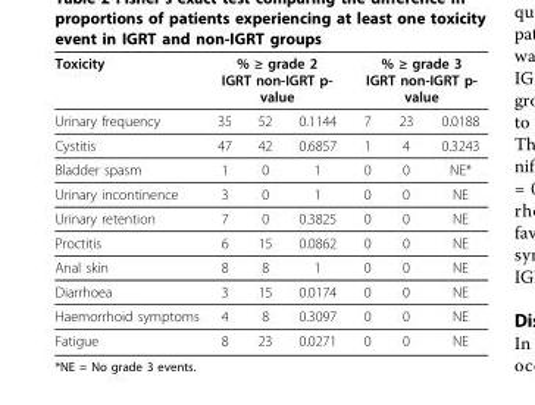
<table><thead><tr><td rowspan="2">Toxicity Urinary frequency</td><td colspan="3">% ≥ grade 2 IGRT non-IGRT p- value</td><td colspan="3">% ≥ grade 3 IGRT non-IGRT p- value</td></tr><tr><td>35</td><td>52</td><td>0.1144</td><td>7</td><td>23</td><td>0.0188</td></tr></thead><tbody><tr><td>Cystitis</td><td>47</td><td>42</td><td>0.6857</td><td>1</td><td>4</td><td>0.3243</td></tr><tr><td>Bladder spasm</td><td>1</td><td>0</td><td>1</td><td>0</td><td>0</td><td>NE*</td></tr><tr><td>Urinary incontinence</td><td>3</td><td>0</td><td>1</td><td>0</td><td>0</td><td>NE</td></tr><tr><td>Urinary retention</td><td>7</td><td>0</td><td>0.3825</td><td>0</td><td>0</td><td>NE</td></tr><tr><td>Proctitis</td><td>6</td><td>15</td><td>0.0862</td><td>0</td><td>0</td><td>NE</td></tr><tr><td>Anal skin</td><td>8</td><td>8</td><td>1</td><td>0</td><td>0</td><td>NE</td></tr><tr><td>Diarrhoea</td><td>3</td><td>15</td><td>0.0174</td><td>0</td><td>0</td><td>NE</td></tr><tr><td>Haemorrhoid symptoms</td><td>4</td><td>8</td><td>0.3097</td><td>0</td><td>0</td><td>NE</td></tr><tr><td>Fatigue</td><td>8</td><td>23</td><td>0.0271</td><td>0</td><td>0</td><td>NE</td></tr></tbody></table>